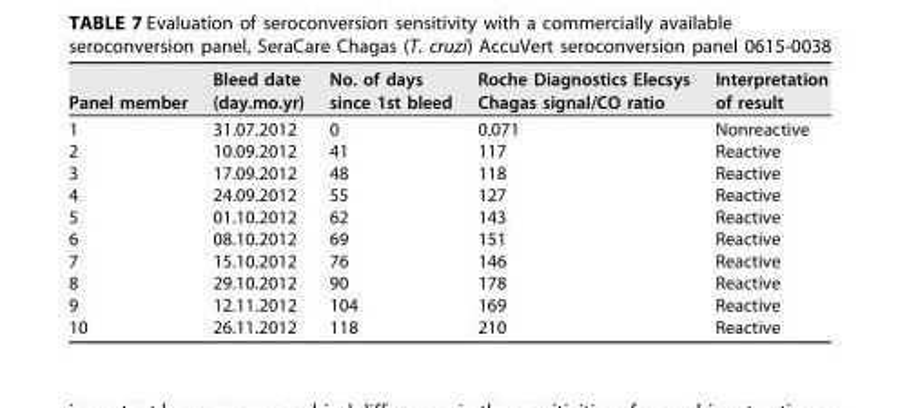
<table><thead><tr><td>Panel member</td><td>Bleed date (day.mo.yr)</td><td>No. of days since 1st bleed</td><td>Roche Diagnostics Elecsys Chagas signal/CO ratio</td><td>Interpretation of result</td></tr></thead><tbody><tr><td>1</td><td>31.07.2012</td><td>0</td><td>0.071</td><td>Nonreactive</td></tr><tr><td>2</td><td>10.09.2012</td><td>41</td><td>117</td><td>Reactive</td></tr><tr><td>3</td><td>17.09.2012</td><td>48</td><td>118</td><td>Reactive</td></tr><tr><td>4</td><td>24.09.2012</td><td>55</td><td>127</td><td>Reactive</td></tr><tr><td>5</td><td>01.10.2012</td><td>62</td><td>143</td><td>Reactive</td></tr><tr><td>6</td><td>08.10.2012</td><td>69</td><td>151</td><td>Reactive</td></tr><tr><td>7</td><td>15.10.2012</td><td>76</td><td>146</td><td>Reactive</td></tr><tr><td>8</td><td>29.10.2012</td><td>90</td><td>178</td><td>Reactive</td></tr><tr><td>9</td><td>12.11.2012</td><td>104</td><td>169</td><td>Reactive</td></tr><tr><td>10</td><td>26.11.2012</td><td>118</td><td>210</td><td>Reactive</td></tr></tbody></table>